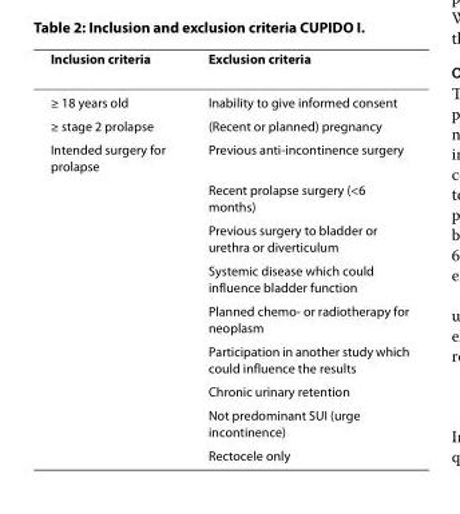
<table><thead><tr><td>Inclusion criteria</td><td>Exclusion criteria</td></tr></thead><tbody><tr><td>≥ 18 years old</td><td>Inability to give informed consent</td></tr><tr><td>≥ stage 2 prolapse</td><td>(Recent or planned) pregnancy</td></tr><tr><td rowspan="9">Intended surgery for prolapse</td><td>Previous anti-incontinence surgery</td></tr><tr><td>Recent prolapse surgery (&lt;6 months)</td></tr><tr><td>Previous surgery to bladder or urethra or diverticulum</td></tr><tr><td>Systemic disease which could influence bladder function</td></tr><tr><td>Planned chemo- or radiotherapy for neoplasm</td></tr><tr><td>Participation in another study which could influence the results</td></tr><tr><td>Chronic urinary retention</td></tr><tr><td>Not predominant SUI (urge incontinence)</td></tr><tr><td>Rectocele only</td></tr></tbody></table>